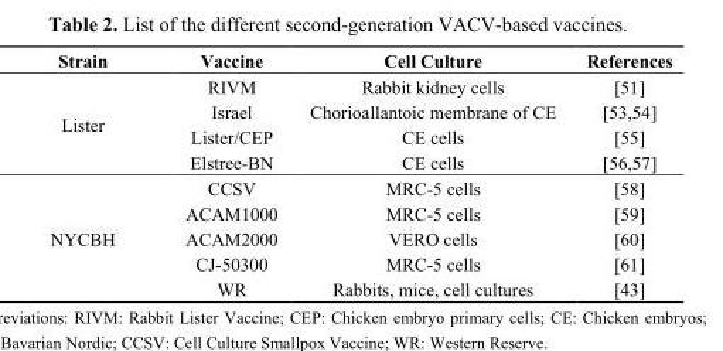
<table><thead><tr><td>Strain</td><td>Vaccine</td><td>Cell Culture</td><td>References</td></tr></thead><tbody><tr><td rowspan="4">Lister</td><td>RIVM</td><td>Rabbit kidney cells</td><td>[51]</td></tr><tr><td>Israel</td><td>Chorioallantoic membrane of CE</td><td>[53,54]</td></tr><tr><td>Lister/CEP</td><td>CE cells</td><td>[55]</td></tr><tr><td>Elstree-BN</td><td>CE cells</td><td>[56,57]</td></tr><tr><td rowspan="5">NYCBH</td><td>CCSV</td><td>MRC-5 cells</td><td>[58]</td></tr><tr><td>ACAM1000</td><td>MRC-5 cells</td><td>[59]</td></tr><tr><td>ACAM2000</td><td>VERO cells</td><td>[60]</td></tr><tr><td>CJ-50300</td><td>MRC-5 cells</td><td>[61]</td></tr><tr><td>WR</td><td>Rabbits, mice, cell cultures</td><td>[43]</td></tr></tbody></table>